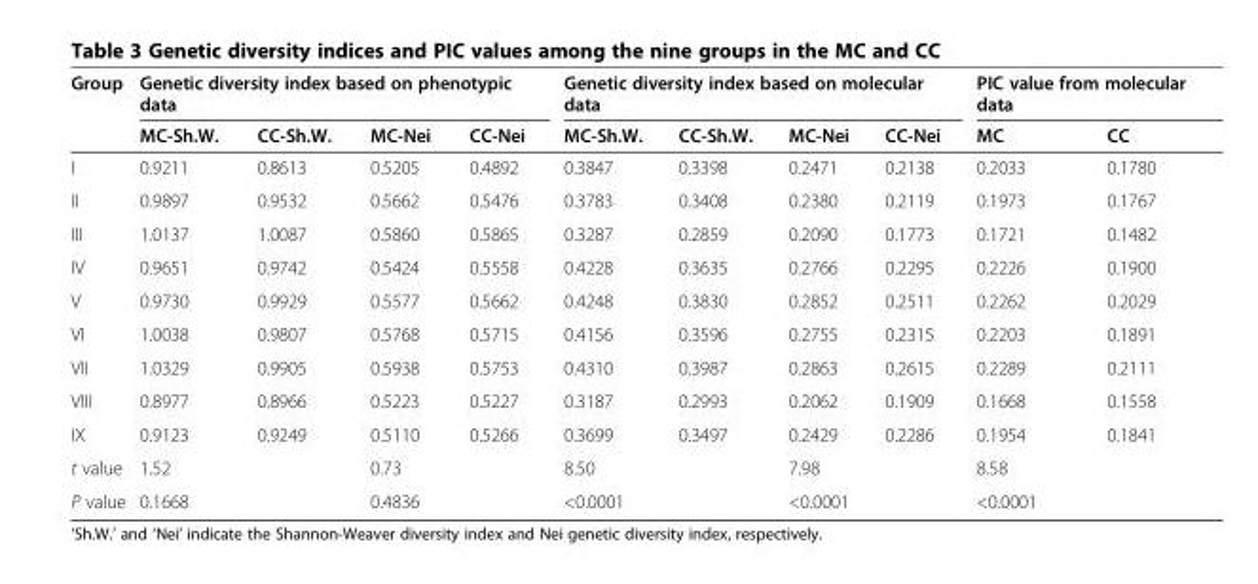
<table><thead><tr><td rowspan="2">Group</td><td colspan="4">Genetic diversity index based on phenotypic data</td><td colspan="4">Genetic diversity index based on molecular data</td><td colspan="2">PIC value from molecular data</td></tr><tr><td>MC-Sh.W.</td><td>CC-Sh.W.</td><td>MC-Nei</td><td>CC-Nei</td><td>MC-Sh.W.</td><td>CC-Sh.W.</td><td>MC-Nei</td><td>CC-Nei</td><td>MC</td><td>CC</td></tr></thead><tbody><tr><td>I</td><td>0.9211</td><td>0.8613</td><td>0.5205</td><td>0.4892</td><td>0.3847</td><td>0.3398</td><td>0.2471</td><td>0.2138</td><td>0.2033</td><td>0.1780</td></tr><tr><td>II</td><td>0.9897</td><td>0.9532</td><td>0.5662</td><td>0.5476</td><td>0.3783</td><td>0.3408</td><td>0.2380</td><td>0.2119</td><td>0.1973</td><td>0.1767</td></tr><tr><td>III</td><td>1.0137</td><td>1.0087</td><td>0.5860</td><td>0.5865</td><td>0.3287</td><td>0.2859</td><td>0.2090</td><td>0.1773</td><td>0.1721</td><td>0.1482</td></tr><tr><td>IV</td><td>0.9651</td><td>0.9742</td><td>0.5424</td><td>0.5558</td><td>0.4228</td><td>0.3635</td><td>0.2766</td><td>0.2295</td><td>0.2226</td><td>0.1900</td></tr><tr><td>V</td><td>0.9730</td><td>0.9929</td><td>0.5577</td><td>0.5662</td><td>0.4248</td><td>0.3830</td><td>0.2852</td><td>0.2511</td><td>0.2262</td><td>0.2029</td></tr><tr><td>VI</td><td>1.0038</td><td>0.9807</td><td>0.5768</td><td>0.5715</td><td>0.4156</td><td>0.3596</td><td>0.2755</td><td>0.2315</td><td>0.2203</td><td>0.1891</td></tr><tr><td>VII</td><td>1.0329</td><td>0.9905</td><td>0.5938</td><td>0.5753</td><td>0.4310</td><td>0.3987</td><td>0.2863</td><td>0.2615</td><td>0.2289</td><td>0.2111</td></tr><tr><td>VIII</td><td>0.8977</td><td>0.8966</td><td>0.5223</td><td>0.5227</td><td>0.3187</td><td>0.2993</td><td>0.2062</td><td>0.1909</td><td>0.1668</td><td>0.1558</td></tr><tr><td>IX</td><td>0.9123</td><td>0.9249</td><td>0.5110</td><td>0.5266</td><td>0.3699</td><td>0.3497</td><td>0.2429</td><td>0.2286</td><td>0.1954</td><td>0.1841</td></tr><tr><td>t value</td><td colspan="2">1.52</td><td colspan="2">0.73</td><td colspan="2">8.50</td><td colspan="2">7.98</td><td colspan="2">8.58</td></tr><tr><td>P value</td><td colspan="2">0.1668</td><td colspan="2">0.4836</td><td colspan="2">&lt;0.0001</td><td colspan="2">&lt;0.0001</td><td colspan="2">&lt;0.0001</td></tr></tbody></table>